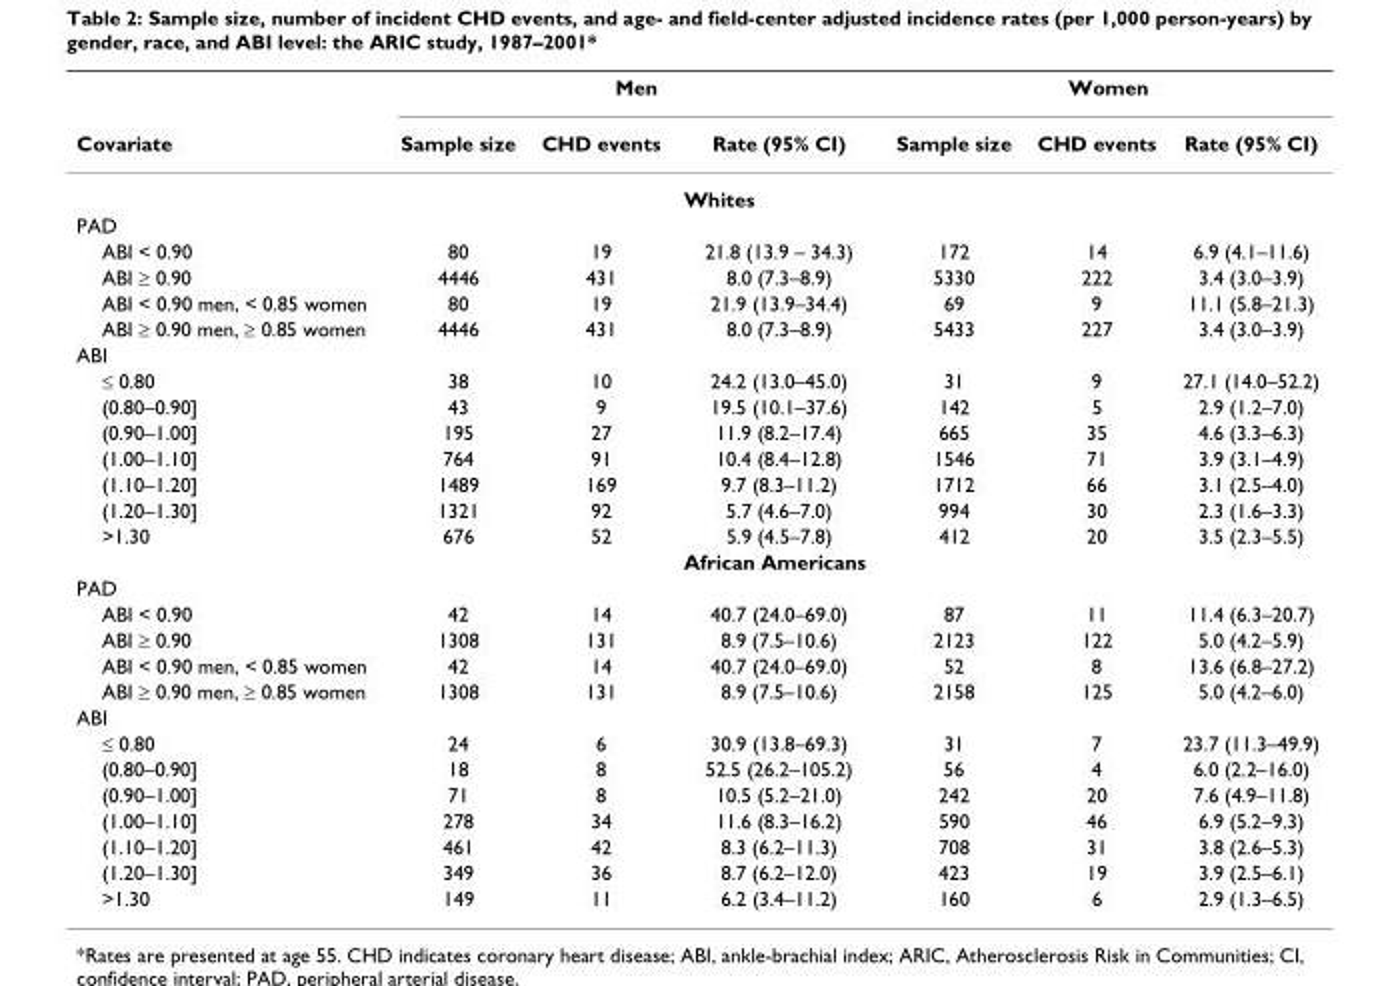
<table><thead><tr><td rowspan="2">Covariate</td><td colspan="3">Men</td><td colspan="3">Women</td></tr><tr><td>Sample size</td><td>CHD events</td><td>Rate (95% CI)</td><td>Sample size</td><td>CHD events</td><td>Rate (95% CI)</td></tr></thead><tbody><tr><td></td><td></td><td></td><td>Whites</td><td></td><td></td><td></td></tr><tr><td colspan="7">PAD</td></tr><tr><td>ABI &lt; 0.90</td><td>80</td><td>19</td><td>21.8 (13.9 – 34.3)</td><td>172</td><td>14</td><td>6.9 (4.1–11.6)</td></tr><tr><td>ABI ≥ 0.90</td><td>4446</td><td>431</td><td>8.0 (7.3–8.9)</td><td>5330</td><td>222</td><td>3.4 (3.0–3.9)</td></tr><tr><td>ABI &lt; 0.90 men, &lt; 0.85 women</td><td>80</td><td>19</td><td>21.9 (13.9–34.4)</td><td>69</td><td>9</td><td>11.1 (5.8–21.3)</td></tr><tr><td>ABI ≥ 0.90 men, ≥ 0.85 women</td><td>4446</td><td>431</td><td>8.0 (7.3–8.9)</td><td>5433</td><td>227</td><td>3.4 (3.0–3.9)</td></tr><tr><td colspan="7">ABI</td></tr><tr><td>≤ 0.80</td><td>38</td><td>10</td><td>24.2 (13.0–45.0)</td><td>31</td><td>9</td><td>27.1 (14.0–52.2)</td></tr><tr><td>(0.80–0.90]</td><td>43</td><td>9</td><td>19.5 (10.1–37.6)</td><td>142</td><td>5</td><td>2.9 (1.2–7.0)</td></tr><tr><td>(0.90–1.00]</td><td>195</td><td>27</td><td>11.9 (8.2–17.4)</td><td>665</td><td>35</td><td>4.6 (3.3–6.3)</td></tr><tr><td>(1.00–1.10]</td><td>764</td><td>91</td><td>10.4 (8.4–12.8)</td><td>1546</td><td>71</td><td>3.9 (3.1–4.9)</td></tr><tr><td>(1.10–1.20]</td><td>1489</td><td>169</td><td>9.7 (8.3–11.2)</td><td>1712</td><td>66</td><td>3.1 (2.5–4.0)</td></tr><tr><td>(1.20–1.30]</td><td>1321</td><td>92</td><td>5.7 (4.6–7.0)</td><td>994</td><td>30</td><td>2.3 (1.6–3.3)</td></tr><tr><td rowspan="2">&gt;1.30</td><td>676</td><td>52</td><td>5.9 (4.5–7.8)</td><td>412</td><td>20</td><td>3.5 (2.3–5.5)</td></tr><tr><td></td><td></td><td>African Americans</td><td></td><td></td><td></td></tr><tr><td colspan="7">PAD</td></tr><tr><td>ABI &lt; 0.90</td><td>42</td><td>14</td><td>40.7 (24.0–69.0)</td><td>87</td><td>11</td><td>11.4 (6.3–20.7)</td></tr><tr><td>ABI ≥ 0.90</td><td>1308</td><td>131</td><td>8.9 (7.5–10.6)</td><td>2123</td><td>122</td><td>5.0 (4.2–5.9)</td></tr><tr><td>ABI &lt; 0.90 men, &lt; 0.85 women</td><td>42</td><td>14</td><td>40.7 (24.0–69.0)</td><td>52</td><td>8</td><td>13.6 (6.8–27.2)</td></tr><tr><td>ABI ≥ 0.90 men, ≥ 0.85 women</td><td>1308</td><td>131</td><td>8.9 (7.5–10.6)</td><td>2158</td><td>125</td><td>5.0 (4.2–6.0)</td></tr><tr><td colspan="7">ABI</td></tr><tr><td>≤ 0.80</td><td>24</td><td>6</td><td>30.9 (13.8–69.3)</td><td>31</td><td>7</td><td>23.7 (11.3–49.9)</td></tr><tr><td>(0.80–0.90]</td><td>18</td><td>8</td><td>52.5 (26.2–105.2)</td><td>56</td><td>4</td><td>6.0 (2.2–16.0)</td></tr><tr><td>(0.90–1.00]</td><td>71</td><td>8</td><td>10.5 (5.2–21.0)</td><td>242</td><td>20</td><td>7.6 (4.9–11.8)</td></tr><tr><td>(1.00–1.10]</td><td>278</td><td>34</td><td>11.6 (8.3–16.2)</td><td>590</td><td>46</td><td>6.9 (5.2–9.3)</td></tr><tr><td>(1.10–1.20]</td><td>461</td><td>42</td><td>8.3 (6.2–11.3)</td><td>708</td><td>31</td><td>3.8 (2.6–5.3)</td></tr><tr><td>(1.20–1.30]</td><td>349</td><td>36</td><td>8.7 (6.2–12.0)</td><td>423</td><td>19</td><td>3.9 (2.5–6.1)</td></tr><tr><td>&gt;1.30</td><td>149</td><td>11</td><td>6.2 (3.4–11.2)</td><td>160</td><td>6</td><td>2.9 (1.3–6.5)</td></tr></tbody></table>